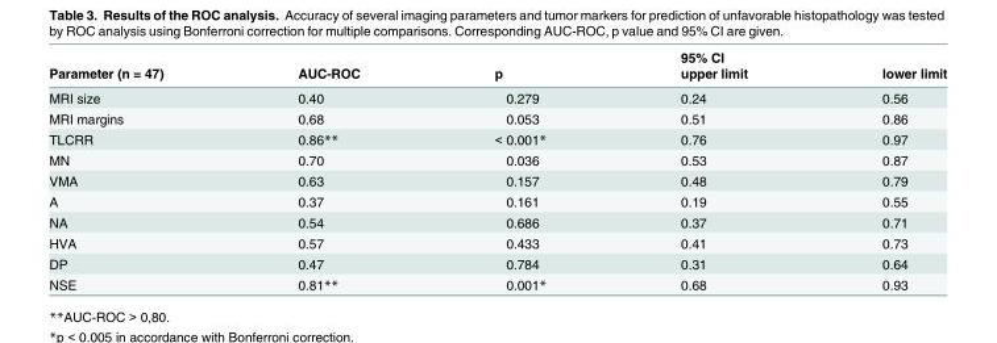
<table><thead><tr><td rowspan="2">Parameter (n = 47)</td><td rowspan="2">AUC-ROC</td><td rowspan="2">p</td><td rowspan="2">95% CI upper limit</td><td rowspan="2">lower limit</td></tr><tr></tr></thead><tbody><tr><td>MRI size</td><td>0.40</td><td>0.279</td><td>0.24</td><td>0.56</td></tr><tr><td>MRI margins</td><td>0.68</td><td>0.053</td><td>0.51</td><td>0.86</td></tr><tr><td>TLCRR</td><td>0.86**</td><td>&lt; 0.001*</td><td>0.76</td><td>0.97</td></tr><tr><td>MN</td><td>0.70</td><td>0.036</td><td>0.53</td><td>0.87</td></tr><tr><td>VMA</td><td>0.63</td><td>0.157</td><td>0.48</td><td>0.79</td></tr><tr><td>A</td><td>0.37</td><td>0.161</td><td>0.19</td><td>0.55</td></tr><tr><td>NA</td><td>0.54</td><td>0.686</td><td>0.37</td><td>0.71</td></tr><tr><td>HVA</td><td>0.57</td><td>0.433</td><td>0.41</td><td>0.73</td></tr><tr><td>DP</td><td>0.47</td><td>0.784</td><td>0.31</td><td>0.64</td></tr><tr><td>NSE</td><td>0.81**</td><td>0.001*</td><td>0.68</td><td>0.93</td></tr></tbody></table>